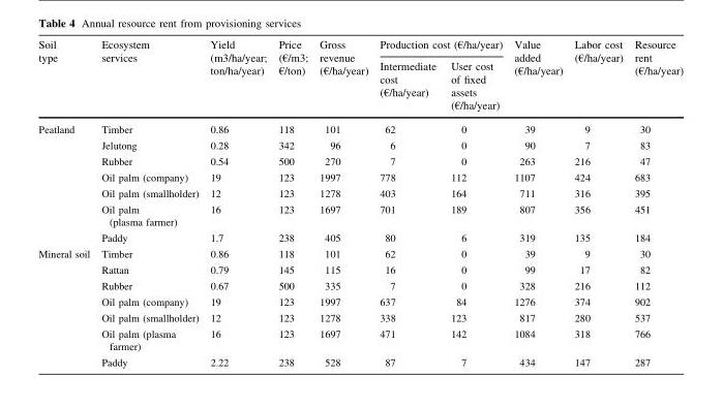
<table><thead><tr><td rowspan="2">Soil type</td><td rowspan="2">Ecosystem services</td><td rowspan="2">Yield (m3/ha/year; ton/ha/year)</td><td rowspan="2">Price (€/m3; €/ton)</td><td rowspan="2">Gross revenue (€/ha/year)</td><td colspan="2">Production cost (€/ha/year)</td><td rowspan="2">Value added (€/ha/year)</td><td rowspan="2">Labor cost (€/ha/year)</td><td rowspan="2">Resource rent (€/ha/year)</td></tr><tr><td>Intermediate cost (€/ha/year)</td><td>User cost of fixed assets (€/ha/year)</td></tr></thead><tbody><tr><td rowspan="7">Peatland</td><td>Timber</td><td>0.86</td><td>118</td><td>101</td><td>62</td><td>0</td><td>39</td><td>9</td><td>30</td></tr><tr><td>Jelutong</td><td>0.28</td><td>342</td><td>96</td><td>6</td><td>0</td><td>90</td><td>7</td><td>83</td></tr><tr><td>Rubber</td><td>0.54</td><td>500</td><td>270</td><td>7</td><td>0</td><td>263</td><td>216</td><td>47</td></tr><tr><td>Oil palm (company)</td><td>19</td><td>123</td><td>1997</td><td>778</td><td>112</td><td>1107</td><td>424</td><td>683</td></tr><tr><td>Oil palm (smallholder)</td><td>12</td><td>123</td><td>1278</td><td>403</td><td>164</td><td>711</td><td>316</td><td>395</td></tr><tr><td>Oil palm (plasma farmer)</td><td>16</td><td>123</td><td>1697</td><td>701</td><td>189</td><td>807</td><td>356</td><td>451</td></tr><tr><td>Paddy</td><td>1.7</td><td>238</td><td>405</td><td>80</td><td>6</td><td>319</td><td>135</td><td>184</td></tr><tr><td rowspan="7">Mineral soil</td><td>Timber</td><td>0.86</td><td>118</td><td>101</td><td>62</td><td>0</td><td>39</td><td>9</td><td>30</td></tr><tr><td>Rattan</td><td>0.79</td><td>145</td><td>115</td><td>16</td><td>0</td><td>99</td><td>17</td><td>82</td></tr><tr><td>Rubber</td><td>0.67</td><td>500</td><td>335</td><td>7</td><td>0</td><td>328</td><td>216</td><td>112</td></tr><tr><td>Oil palm (company)</td><td>19</td><td>123</td><td>1997</td><td>637</td><td>84</td><td>1276</td><td>374</td><td>902</td></tr><tr><td>Oil palm (smallholder)</td><td>12</td><td>123</td><td>1278</td><td>338</td><td>123</td><td>817</td><td>280</td><td>537</td></tr><tr><td>Oil palm (plasma farmer)</td><td>16</td><td>123</td><td>1697</td><td>471</td><td>142</td><td>1084</td><td>318</td><td>766</td></tr><tr><td>Paddy</td><td>2.22</td><td>238</td><td>528</td><td>87</td><td>7</td><td>434</td><td>147</td><td>287</td></tr></tbody></table>